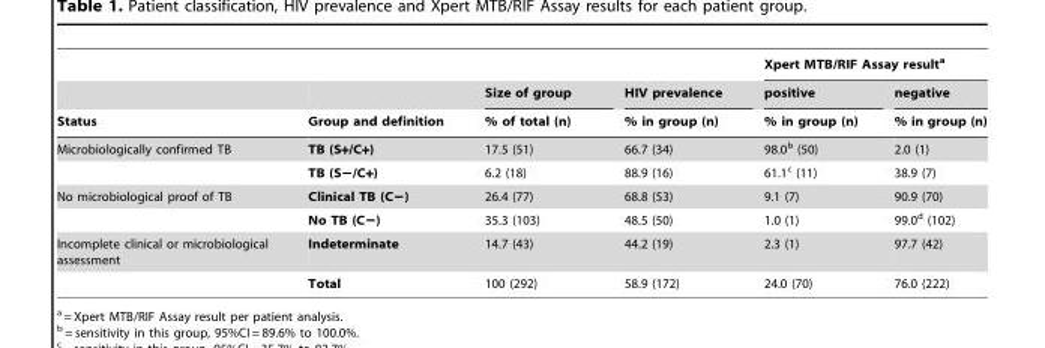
<table><thead><tr><td rowspan="3">Status</td><td rowspan="3">Group and definition</td><td rowspan="3">Size of group % of total (n)</td><td rowspan="3">HIV prevalence % in group (n)</td><td colspan="2">Xpert MTB/RIF Assay result<sup>a</sup></td></tr><tr><td rowspan="2">positive % in group (n)</td><td rowspan="2">negative % in group (n)</td></tr><tr></tr></thead><tbody><tr><td rowspan="2">Microbiologically confirmed TB</td><td>TB (S+/C+)</td><td>17.5 (51)</td><td>66.7 (34)</td><td>98.0<sup>b</sup> (50)</td><td>2.0 (1)</td></tr><tr><td>TB (S−/C+)</td><td>6.2 (18)</td><td>88.9 (16)</td><td>61.1<sup>c</sup> (11)</td><td>38.9 (7)</td></tr><tr><td rowspan="2">No microbiological proof of TB</td><td>Clinical TB (C−)</td><td>26.4 (77)</td><td>68.8 (53)</td><td>9.1 (7)</td><td>90.9 (70)</td></tr><tr><td>No TB (C−)</td><td>35.3 (103)</td><td>48.5 (50)</td><td>1.0 (1)</td><td>99.0<sup>d</sup> (102)</td></tr><tr><td rowspan="2">Incomplete clinical or microbiological assessment</td><td>Indeterminate</td><td>14.7 (43)</td><td>44.2 (19)</td><td>2.3 (1)</td><td>97.7 (42)</td></tr><tr><td>Total</td><td>100 (292)</td><td>58.9 (172)</td><td>24.0 (70)</td><td>76.0 (222)</td></tr></tbody></table>